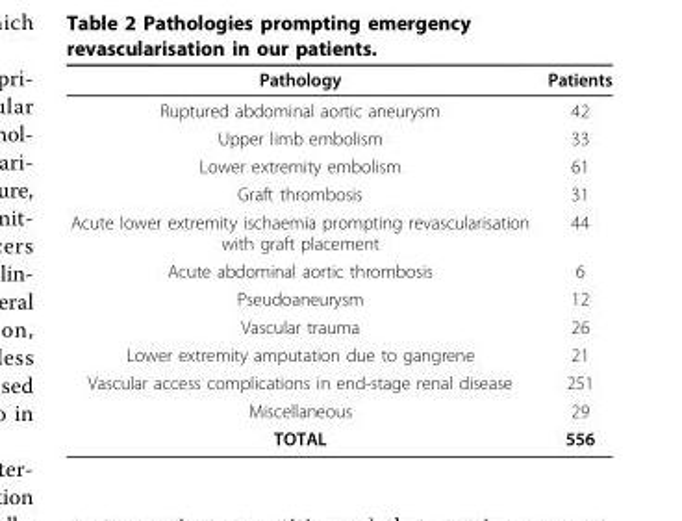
<table><thead><tr><td>Pathology</td><td>Patients</td></tr></thead><tbody><tr><td>Ruptured abdominal aortic aneurysm</td><td>42</td></tr><tr><td>Upper limb embolism</td><td>33</td></tr><tr><td>Lower extremity embolism</td><td>61</td></tr><tr><td>Graft thrombosis</td><td>31</td></tr><tr><td>Acute lower extremity ischaemia prompting revascularisation with graft placement</td><td>44</td></tr><tr><td>Acute abdominal aortic thrombosis</td><td>6</td></tr><tr><td>Pseudoaneurysm</td><td>12</td></tr><tr><td>Vascular trauma</td><td>26</td></tr><tr><td>Lower extremity amputation due to gangrene</td><td>21</td></tr><tr><td>Vascular access complications in end-stage renal disease</td><td>251</td></tr><tr><td>Miscellaneous</td><td>29</td></tr><tr><td>TOTAL</td><td>556</td></tr></tbody></table>